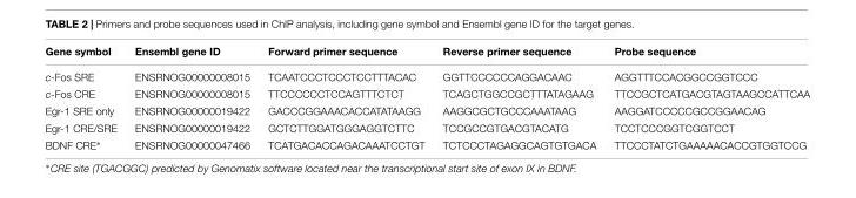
<table><thead><tr><td>Gene symbol</td><td>Ensembl gene ID</td><td>Forward primer sequence</td><td>Reverse primer sequence</td><td>Probe sequence</td></tr></thead><tbody><tr><td>c-Fos SRE</td><td>ENSRNOG00000008015</td><td>TCAATCCCTCCCTCCTTTACAC</td><td>GGTTCCCCCCAGGACAAC</td><td>AGGTTTCCACGGCCGGTCCC</td></tr><tr><td>c-Fos CRE</td><td>ENSRNOG00000008015</td><td>TTCCCCCCTCCAGTTTCTCT</td><td>TCAGCTGGCCGCTTTATAGAAG</td><td>TTCCGCTCATGACGTAGTAAGCCATTCAA</td></tr><tr><td>Egr-1 SRE only</td><td>ENSRNOG00000019422</td><td>GACCCGGAAACACCATATAAGG</td><td>AAGGCGCTGCCCAAATAAG</td><td>AAGGATCCCCCGCCGGAACAG</td></tr><tr><td>Egr-1 CRE/SRE</td><td>ENSRNOG00000019422</td><td>GCTCTTGGATGGGAGGTCTTC</td><td>TCCGCCGTGACGTACATG</td><td>TCCTCCCGGTCGGTCCT</td></tr><tr><td>BDNF CRE∗</td><td>ENSRNOG00000047466</td><td>TCATGACACCAGACAAATCCTGT</td><td>TCTCCCTAGAGGCAGTGTGACA</td><td>TTCCCTATCTGAAAAACACCGTGGTCCG</td></tr></tbody></table>